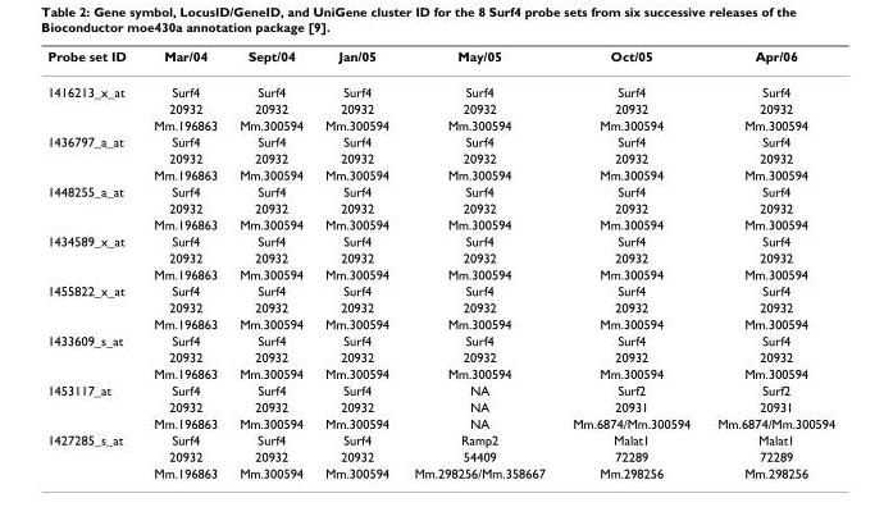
<table><thead><tr><td>Probe set ID</td><td>Mar/04</td><td>Sept/04</td><td>Jan/05</td><td>May/05</td><td>Oct/05</td><td>Apr/06</td></tr></thead><tbody><tr><td rowspan="3">1416213_x_at</td><td>Surf4</td><td>Surf4</td><td>Surf4</td><td>Surf4</td><td>Surf4</td><td>Surf4</td></tr><tr><td>20932</td><td>20932</td><td>20932</td><td>20932</td><td>20932</td><td>20932</td></tr><tr><td>Mm.196863</td><td>Mm.300594</td><td>Mm.300594</td><td>Mm.300594</td><td>Mm.300594</td><td>Mm.300594</td></tr><tr><td rowspan="3">1436797_a_at</td><td>Surf4</td><td>Surf4</td><td>Surf4</td><td>Surf4</td><td>Surf4</td><td>Surf4</td></tr><tr><td>20932</td><td>20932</td><td>20932</td><td>20932</td><td>20932</td><td>20932</td></tr><tr><td>Mm.196863</td><td>Mm.300594</td><td>Mm.300594</td><td>Mm.300594</td><td>Mm.300594</td><td>Mm.300594</td></tr><tr><td rowspan="3">1448255_a_at</td><td>Surf4</td><td>Surf4</td><td>Surf4</td><td>Surf4</td><td>Surf4</td><td>Surf4</td></tr><tr><td>20932</td><td>20932</td><td>20932</td><td>20932</td><td>20932</td><td>20932</td></tr><tr><td>Mm.196863</td><td>Mm.300594</td><td>Mm.300594</td><td>Mm.300594</td><td>Mm.300594</td><td>Mm.300594</td></tr><tr><td rowspan="3">1434589_x_at</td><td>Surf4</td><td>Surf4</td><td>Surf4</td><td>Surf4</td><td>Surf4</td><td>Surf4</td></tr><tr><td>20932</td><td>20932</td><td>20932</td><td>20932</td><td>20932</td><td>20932</td></tr><tr><td>Mm.196863</td><td>Mm.300594</td><td>Mm.300594</td><td>Mm.300594</td><td>Mm.300594</td><td>Mm.300594</td></tr><tr><td rowspan="3">1455822_x_at</td><td>Surf4</td><td>Surf4</td><td>Surf4</td><td>Surf4</td><td>Surf4</td><td>Surf4</td></tr><tr><td>20932</td><td>20932</td><td>20932</td><td>20932</td><td>20932</td><td>20932</td></tr><tr><td>Mm.196863</td><td>Mm.300594</td><td>Mm.300594</td><td>Mm.300594</td><td>Mm.300594</td><td>Mm.300594</td></tr><tr><td rowspan="3">1433609_s_at</td><td>Surf4</td><td>Surf4</td><td>Surf4</td><td>Surf4</td><td>Surf4</td><td>Surf4</td></tr><tr><td>20932</td><td>20932</td><td>20932</td><td>20932</td><td>20932</td><td>20932</td></tr><tr><td>Mm.196863</td><td>Mm.300594</td><td>Mm.300594</td><td>Mm.300594</td><td>Mm.300594</td><td>Mm.300594</td></tr><tr><td rowspan="3">1453117_at</td><td>Surf4</td><td>Surf4</td><td>Surf4</td><td>NA</td><td>Surf2</td><td>Surf2</td></tr><tr><td>20932</td><td>20932</td><td>20932</td><td>NA</td><td>20931</td><td>20931</td></tr><tr><td>Mm.196863</td><td>Mm.300594</td><td>Mm.300594</td><td>NA</td><td>Mm.6874/Mm.300594</td><td>Mm.6874/Mm.300594</td></tr><tr><td rowspan="3">1427285_s_at</td><td>Surf4</td><td>Surf4</td><td>Surf4</td><td>Ramp2</td><td>Malat1</td><td>Malat1</td></tr><tr><td>20932</td><td>20932</td><td>20932</td><td>54409</td><td>72289</td><td>72289</td></tr><tr><td>Mm.196863</td><td>Mm.300594</td><td>Mm.300594</td><td>Mm.298256/Mm.358667</td><td>Mm.298256</td><td>Mm.298256</td></tr></tbody></table>